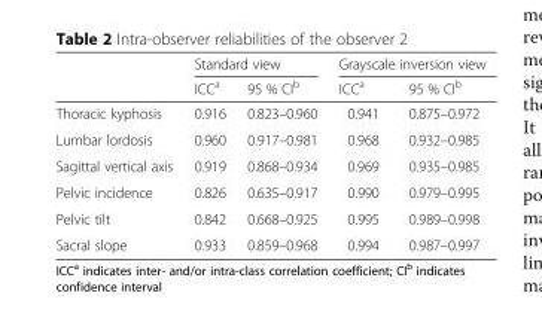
<table><thead><tr><td rowspan="2"></td><td colspan="2">Standard view</td><td colspan="2">Grayscale inversion view</td></tr><tr><td>ICC<sup>a</sup></td><td>95 % CI<sup>b</sup></td><td>ICC<sup>a</sup></td><td>95 % CI<sup>b</sup></td></tr></thead><tbody><tr><td>Thoracic kyphosis</td><td>0.916</td><td>0.823–0.960</td><td>0.941</td><td>0.875–0.972</td></tr><tr><td>Lumbar lordosis</td><td>0.960</td><td>0.917–0.981</td><td>0.968</td><td>0.932–0.985</td></tr><tr><td>Sagittal vertical axis</td><td>0.919</td><td>0.868–0.934</td><td>0.969</td><td>0.935–0.985</td></tr><tr><td>Pelvic incidence</td><td>0.826</td><td>0.635–0.917</td><td>0.990</td><td>0.979–0.995</td></tr><tr><td>Pelvic tilt</td><td>0.842</td><td>0.668–0.925</td><td>0.995</td><td>0.989–0.998</td></tr><tr><td>Sacral slope</td><td>0.933</td><td>0.859–0.968</td><td>0.994</td><td>0.987–0.997</td></tr></tbody></table>